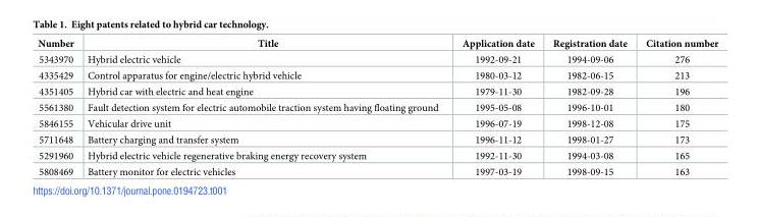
<table><thead><tr><td>Number</td><td>Title</td><td>Application date</td><td>Registration date</td><td>Citation number</td></tr></thead><tbody><tr><td>5343970</td><td>Hybrid electric vehicle</td><td>1992-09-21</td><td>1994-09-06</td><td>276</td></tr><tr><td>4335429</td><td>Control apparatus for engine/electric hybrid vehicle</td><td>1980-03-12</td><td>1982-06-15</td><td>213</td></tr><tr><td>4351405</td><td>Hybrid car with electric and heat engine</td><td>1979-11-30</td><td>1982-09-28</td><td>196</td></tr><tr><td>5561380</td><td>Fault detection system for electric automobile traction system having floating ground</td><td>1995-05-08</td><td>1996-10-01</td><td>180</td></tr><tr><td>5846155</td><td>Vehicular drive unit</td><td>1996-07-19</td><td>1998-12-08</td><td>175</td></tr><tr><td>5711648</td><td>Battery charging and transfer system</td><td>1996-11-12</td><td>1998-01-27</td><td>173</td></tr><tr><td>5291960</td><td>Hybrid electric vehicle regenerative braking energy recovery system</td><td>1992-11-30</td><td>1994-03-08</td><td>165</td></tr><tr><td>5808469</td><td>Battery monitor for electric vehicles</td><td>1997-03-19</td><td>1998-09-15</td><td>163</td></tr></tbody></table>